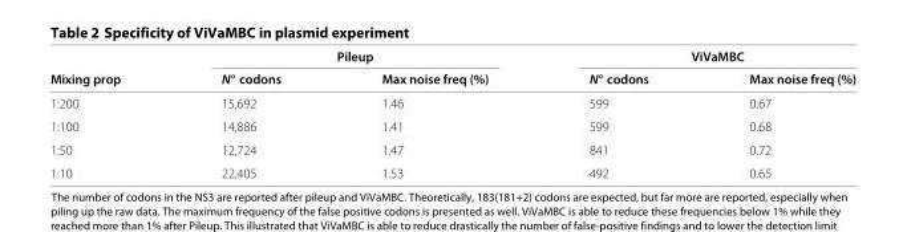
<table><thead><tr><td rowspan="2">Mixing prop</td><td colspan="2">Pileup</td><td colspan="2">ViVaMBC</td></tr><tr><td>N◦ codons</td><td>Max noise freq (%)</td><td>N◦ codons</td><td>Max noise freq (%)</td></tr></thead><tbody><tr><td>1:200</td><td>15,692</td><td>1.46</td><td>599</td><td>0.67</td></tr><tr><td>1:100</td><td>14,886</td><td>1.41</td><td>599</td><td>0.68</td></tr><tr><td>1:50</td><td>12,724</td><td>1.47</td><td>841</td><td>0.72</td></tr><tr><td>1:10</td><td>22,405</td><td>1.53</td><td>492</td><td>0.65</td></tr></tbody></table>